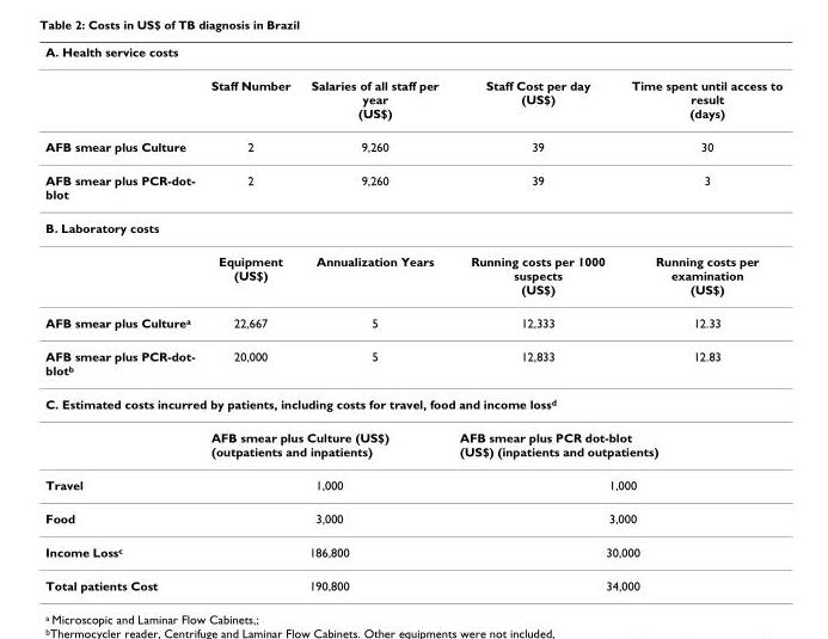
<table><thead><tr><td colspan="5">A. Health service costs</td></tr><tr><td></td><td>Staff Number</td><td>Salaries of all staff per year (US$)</td><td>Staff Cost per day (US$)</td><td>Time spent until access to result (days)</td></tr></thead><tbody><tr><td>AFB smear plus Culture</td><td>2</td><td>9,260</td><td>39</td><td>30</td></tr><tr><td>AFB smear plus PCR-dot- blot</td><td>2</td><td>9,260</td><td>39</td><td>3</td></tr><tr><td colspan="5">B. Laboratory costs</td></tr><tr><td></td><td>Equipment (US$)</td><td>Annualization Years</td><td>Running costs per 1000 suspects (US$)</td><td>Running costs per examination (US$)</td></tr><tr><td>AFB smear plus Culture<sup>a</sup></td><td>22,667</td><td>5</td><td>12,333</td><td>12.33</td></tr><tr><td>AFB smear plus PCR-dot- blot<sup>b</sup></td><td>20,000</td><td>5</td><td>12,833</td><td>12.83</td></tr><tr><td colspan="5">C. Estimated costs incurred by patients, including costs for travel, food and income loss<sup>d</sup></td></tr><tr><td></td><td colspan="2">AFB smear plus Culture (US$) (outpatients and inpatients)</td><td colspan="2">AFB smear plus PCR dot-blot (US$) (inpatients and outpatients)</td></tr><tr><td>Travel</td><td colspan="2">1,000</td><td colspan="2">1,000</td></tr><tr><td>Food</td><td colspan="2">3,000</td><td colspan="2">3,000</td></tr><tr><td>Income Loss<sup>c</sup></td><td colspan="2">186,800</td><td colspan="2">30,000</td></tr><tr><td>Total patients Cost</td><td colspan="2">190,800</td><td colspan="2">34,000</td></tr></tbody></table>